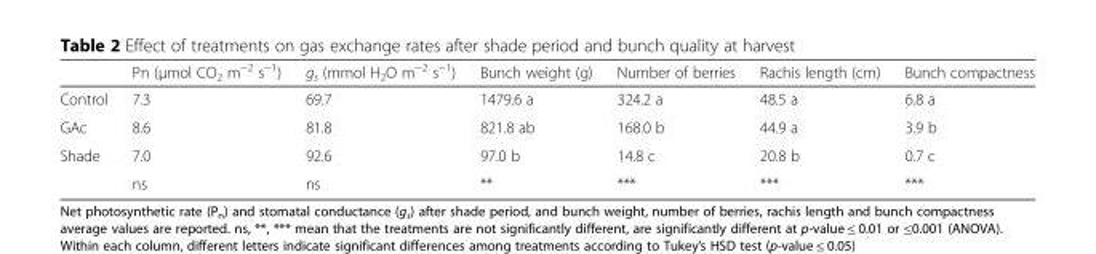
<table><thead><tr><td></td><td>Pn (μmol CO<sub>2</sub> m<sup>−2</sup> s<sup>−1</sup>)</td><td>g<sub>s</sub> (mmol H<sub>2</sub>O m<sup>−2</sup> s<sup>−1</sup>)</td><td>Bunch weight (g)</td><td>Number of berries</td><td>Rachis length (cm)</td><td>Bunch compactness</td></tr></thead><tbody><tr><td>Control</td><td>7.3</td><td>69.7</td><td>1479.6 a</td><td>324.2 a</td><td>48.5 a</td><td>6.8 a</td></tr><tr><td>GAc</td><td>8.6</td><td>81.8</td><td>821.8 ab</td><td>168.0 b</td><td>44.9 a</td><td>3.9 b</td></tr><tr><td rowspan="2">Shade</td><td>7.0</td><td>92.6</td><td>97.0 b</td><td>14.8 c</td><td>20.8 b</td><td>0.7 c</td></tr><tr><td>ns</td><td>ns</td><td>**</td><td>***</td><td>***</td><td>***</td></tr></tbody></table>